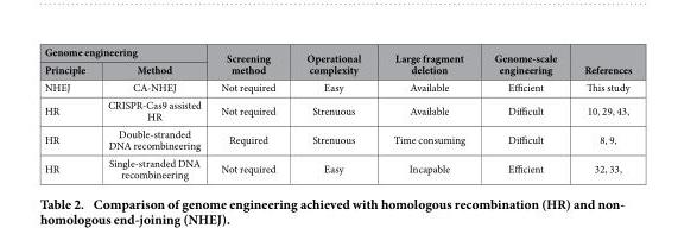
<table><thead><tr><td colspan="2">Genome engineering</td><td rowspan="2">Screening method</td><td rowspan="2">Operational complexity</td><td rowspan="2">Large fragment deletion</td><td rowspan="2">Genome-scale engineering</td><td rowspan="2">References</td></tr><tr><td>Principle</td><td>Method</td></tr></thead><tbody><tr><td>NHEJ</td><td>CA-NHEJ</td><td>Not required</td><td>Easy</td><td>Available</td><td>Efficient</td><td>This study</td></tr><tr><td>HR</td><td>CRISPR-Cas9 assisted HR</td><td>Not required</td><td>Strenuous</td><td>Available</td><td>Difficult</td><td>10, 29, 43,</td></tr><tr><td>HR</td><td>Double-stranded DNA recombineering</td><td>Required</td><td>Strenuous</td><td>Time consuming</td><td>Difficult</td><td>8, 9,</td></tr><tr><td>HR</td><td>Single-stranded DNA recombineering</td><td>Not required</td><td>Easy</td><td>Incapable</td><td>Efficient</td><td>32, 33,</td></tr></tbody></table>